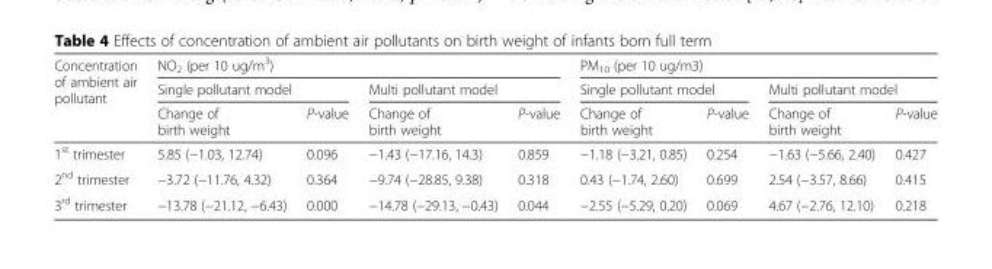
<table><thead><tr><td rowspan="3">Concentration of ambient air pollutant</td><td colspan="4">NO<sub>2</sub> (per 10 ug/m<sup>3</sup>)</td><td colspan="4">PM<sub>10</sub> (per 10 ug/m3)</td></tr><tr><td colspan="2">Single pollutant model</td><td colspan="2">Multi pollutant model</td><td colspan="2">Single pollutant model</td><td colspan="2">Multi pollutant model</td></tr><tr><td>Change of birth weight</td><td>P-value</td><td>Change of birth weight</td><td>P-value</td><td>Change of birth weight</td><td>P-value</td><td>Change of birth weight</td><td>P-value</td></tr></thead><tbody><tr><td>1<sup>st</sup> trimester</td><td>5.85 (−1.03, 12.74)</td><td>0.096</td><td>−1.43 (−17.16, 14.3)</td><td>0.859</td><td>−1.18 (−3.21, 0.85)</td><td>0.254</td><td>−1.63 (−5.66, 2.40)</td><td>0.427</td></tr><tr><td>2<sup>nd</sup> trimester</td><td>−3.72 (−11.76, 4.32)</td><td>0.364</td><td>−9.74 (−28.85, 9.38)</td><td>0.318</td><td>0.43 (−1.74, 2.60)</td><td>0.699</td><td>2.54 (−3.57, 8.66)</td><td>0.415</td></tr><tr><td>3<sup>rd</sup> trimester</td><td>−13.78 (−21.12, −6.43)</td><td>0.000</td><td>−14.78 (−29.13, −0.43)</td><td>0.044</td><td>−2.55 (−5.29, 0.20)</td><td>0.069</td><td>4.67 (−2.76, 12.10)</td><td>0.218</td></tr></tbody></table>